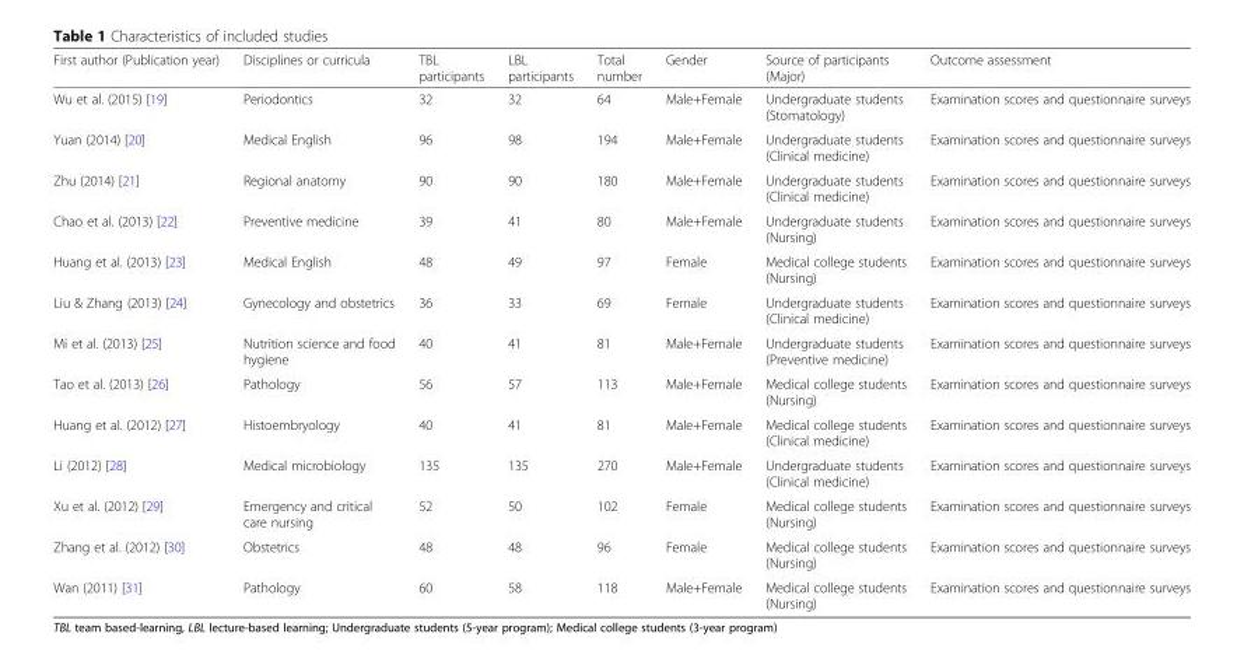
<table><thead><tr><td>First author (Publication year)</td><td>Disciplines or curricula</td><td>TBL participants</td><td>LBL participants</td><td>Total number</td><td>Gender</td><td>Source of participants (Major)</td><td>Outcome assessment</td></tr></thead><tbody><tr><td>Wu et al. (2015) [19]</td><td>Periodontics</td><td>32</td><td>32</td><td>64</td><td>Male+Female</td><td>Undergraduate students (Stomatology)</td><td>Examination scores and questionnaire surveys</td></tr><tr><td>Yuan (2014) [20]</td><td>Medical English</td><td>96</td><td>98</td><td>194</td><td>Male+Female</td><td>Undergraduate students (Clinical medicine)</td><td>Examination scores and questionnaire surveys</td></tr><tr><td>Zhu (2014) [21]</td><td>Regional anatomy</td><td>90</td><td>90</td><td>180</td><td>Male+Female</td><td>Undergraduate students (Clinical medicine)</td><td>Examination scores and questionnaire surveys</td></tr><tr><td>Chao et al. (2013) [22]</td><td>Preventive medicine</td><td>39</td><td>41</td><td>80</td><td>Male+Female</td><td>Undergraduate students (Nursing)</td><td>Examination scores and questionnaire surveys</td></tr><tr><td>Huang et al. (2013) [23]</td><td>Medical English</td><td>48</td><td>49</td><td>97</td><td>Female</td><td>Medical college students (Nursing)</td><td>Examination scores and questionnaire surveys</td></tr><tr><td>Liu &amp; Zhang (2013) [24]</td><td>Gynecology and obstetrics</td><td>36</td><td>33</td><td>69</td><td>Female</td><td>Undergraduate students (Clinical medicine)</td><td>Examination scores and questionnaire surveys</td></tr><tr><td>Mi et al. (2013) [25]</td><td>Nutrition science and food hygiene</td><td>40</td><td>41</td><td>81</td><td>Male+Female</td><td>Undergraduate students (Preventive medicine)</td><td>Examination scores and questionnaire surveys</td></tr><tr><td>Tao et al. (2013) [26]</td><td>Pathology</td><td>56</td><td>57</td><td>113</td><td>Male+Female</td><td>Medical college students (Nursing)</td><td>Examination scores and questionnaire surveys</td></tr><tr><td>Huang et al. (2012) [27]</td><td>Histoembryology</td><td>40</td><td>41</td><td>81</td><td>Male+Female</td><td>Medical college students (Clinical medicine)</td><td>Examination scores and questionnaire surveys</td></tr><tr><td>Li (2012) [28]</td><td>Medical microbiology</td><td>135</td><td>135</td><td>270</td><td>Male+Female</td><td>Undergraduate students (Clinical medicine)</td><td>Examination scores and questionnaire surveys</td></tr><tr><td>Xu et al. (2012) [29]</td><td>Emergency and critical care nursing</td><td>52</td><td>50</td><td>102</td><td>Female</td><td>Medical college students (Nursing)</td><td>Examination scores and questionnaire surveys</td></tr><tr><td>Zhang et al. (2012) [30]</td><td>Obstetrics</td><td>48</td><td>48</td><td>96</td><td>Female</td><td>Medical college students (Nursing)</td><td>Examination scores and questionnaire surveys</td></tr><tr><td>Wan (2011) [31]</td><td>Pathology</td><td>60</td><td>58</td><td>118</td><td>Male+Female</td><td>Medical college students (Nursing)</td><td>Examination scores and questionnaire surveys</td></tr></tbody></table>